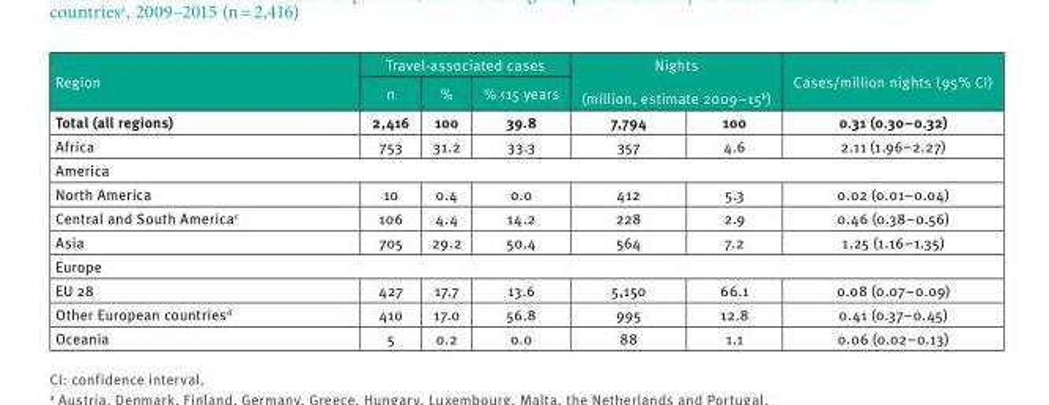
<table><thead><tr><td rowspan="3">Region Total (all regions)</td><td colspan="3">Travel-associated cases</td><td rowspan="2" colspan="2">Nights (million, estimate 2009−15<sup>b</sup>)</td><td rowspan="3">Cases/million nights (95% CI) 0.31 (0.30–0.32)</td></tr><tr><td rowspan="2">n 2,416</td><td rowspan="2">% 100</td><td rowspan="2">% &lt;15 years 39.8</td></tr><tr><td>7,794</td><td>100</td></tr></thead><tbody><tr><td>Africa</td><td>753</td><td>31.2</td><td>33.3</td><td>357</td><td>4.6</td><td>2.11 (1.96–2.27)</td></tr><tr><td colspan="7">America</td></tr><tr><td>North America</td><td>10</td><td>0.4</td><td>0.0</td><td>412</td><td>5.3</td><td>0.02 (0.01–0.04)</td></tr><tr><td>Central and South America<sup>c</sup></td><td>106</td><td>4.4</td><td>14.2</td><td>228</td><td>2.9</td><td>0.46 (0.38–0.56)</td></tr><tr><td>Asia</td><td>705</td><td>29.2</td><td>50.4</td><td>564</td><td>7.2</td><td>1.25 (1.16–1.35)</td></tr><tr><td colspan="7">Europe</td></tr><tr><td>EU 28</td><td>427</td><td>17.7</td><td>13.6</td><td>5,150</td><td>66.1</td><td>0.08 (0.07–0.09)</td></tr><tr><td>Other European countries<sup>d</sup></td><td>410</td><td>17.0</td><td>56.8</td><td>995</td><td>12.8</td><td>0.41 (0.37–0.45)</td></tr><tr><td>Oceania</td><td>5</td><td>0.2</td><td>0.0</td><td>88</td><td>1.1</td><td>0.06 (0.02–0.13)</td></tr></tbody></table>